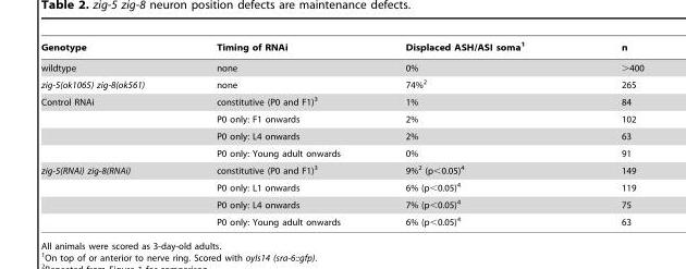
<table><thead><tr><td>Genotype</td><td>Timing of RNAi</td><td>Displaced ASH/ASI soma<sup>1</sup></td><td>n</td></tr></thead><tbody><tr><td>wildtype</td><td>none</td><td>0%</td><td>&gt;400</td></tr><tr><td>zig-5(ok1065) zig-8(ok561)</td><td>none</td><td>74%<sup>2</sup></td><td>265</td></tr><tr><td rowspan="4">Control RNAi</td><td>constitutive (P0 and F1)<sup>3</sup></td><td>1%</td><td>84</td></tr><tr><td>P0 only: F1 onwards</td><td>2%</td><td>102</td></tr><tr><td>P0 only: L4 onwards</td><td>2%</td><td>63</td></tr><tr><td>P0 only: Young adult onwards</td><td>0%</td><td>91</td></tr><tr><td rowspan="4">zig-5(RNAi) zig-8(RNAi)</td><td>constitutive (P0 and F1)<sup>3</sup></td><td>9%<sup>2</sup> (p&lt;0.05)<sup>4</sup></td><td>149</td></tr><tr><td>P0 only: L1 onwards</td><td>6% (p&lt;0.05)<sup>4</sup></td><td>119</td></tr><tr><td>P0 only: L4 onwards</td><td>7% (p&lt;0.05)<sup>4</sup></td><td>75</td></tr><tr><td>P0 only: Young adult onwards</td><td>6% (p&lt;0.05)<sup>4</sup></td><td>63</td></tr></tbody></table>